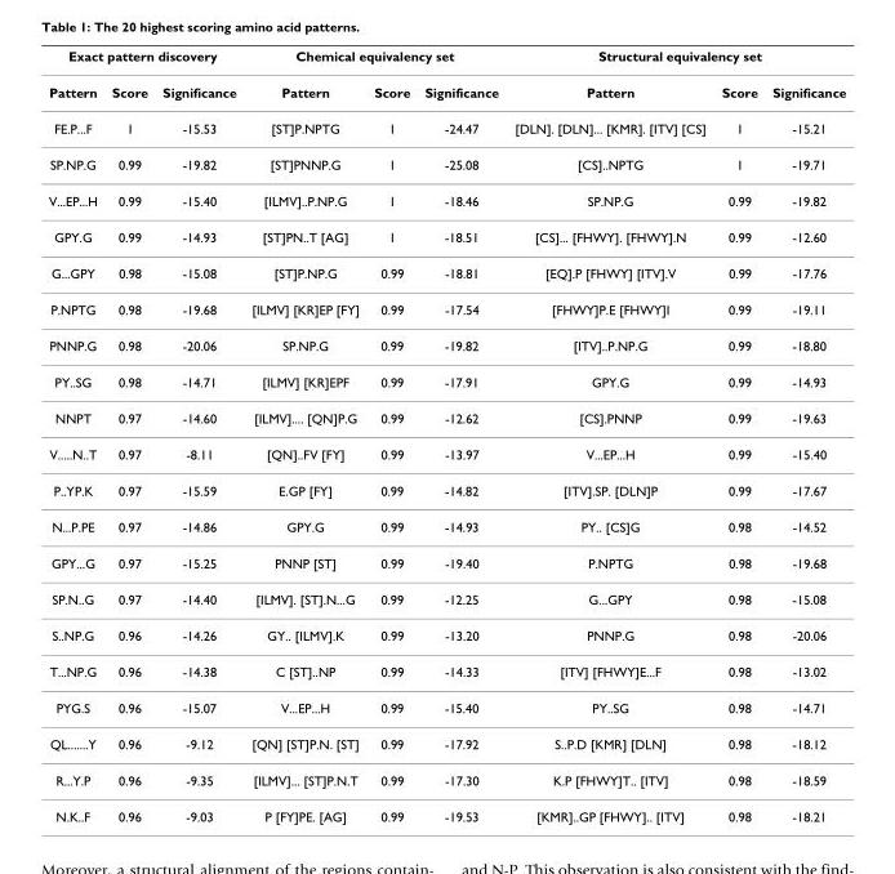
<table><thead><tr><td colspan="3">Exact pattern discovery</td><td colspan="3">Chemical equivalency set</td><td colspan="3">Structural equivalency set</td></tr><tr><td>Pattern</td><td>Score</td><td>Significance</td><td>Pattern</td><td>Score</td><td>Significance</td><td>Pattern</td><td>Score</td><td>Significance</td></tr></thead><tbody><tr><td>FE.P...F</td><td>1</td><td>-15.53</td><td>[ST]P.NPTG</td><td>1</td><td>-24.47</td><td>[DLN]. [DLN]... [KMR]. [ITV] [CS]</td><td>1</td><td>-15.21</td></tr><tr><td>SP.NP.G</td><td>0.99</td><td>-19.82</td><td>[ST]PNNP.G</td><td>1</td><td>-25.08</td><td>[CS]..NPTG</td><td>1</td><td>-19.71</td></tr><tr><td>V...EP...H</td><td>0.99</td><td>-15.40</td><td>[ILMV]..P.NP.G</td><td>1</td><td>-18.46</td><td>SP.NP.G</td><td>0.99</td><td>-19.82</td></tr><tr><td>GPY.G</td><td>0.99</td><td>-14.93</td><td>[ST]PN..T [AG]</td><td>1</td><td>-18.51</td><td>[CS]... [FHWY]. [FHWY].N</td><td>0.99</td><td>-12.60</td></tr><tr><td>G...GPY</td><td>0.98</td><td>-15.08</td><td>[ST]P.NP.G</td><td>0.99</td><td>-18.81</td><td>[EQ].P [FHWY] [ITV].V</td><td>0.99</td><td>-17.76</td></tr><tr><td>P.NPTG</td><td>0.98</td><td>-19.68</td><td>[ILMV] [KR]EP [FY]</td><td>0.99</td><td>-17.54</td><td>[FHWY]P.E [FHWY]I</td><td>0.99</td><td>-19.11</td></tr><tr><td>PNNP.G</td><td>0.98</td><td>-20.06</td><td>SP.NP.G</td><td>0.99</td><td>-19.82</td><td>[ITV]..P.NP.G</td><td>0.99</td><td>-18.80</td></tr><tr><td>PY..SG</td><td>0.98</td><td>-14.71</td><td>[ILMV] [KR]EPF</td><td>0.99</td><td>-17.91</td><td>GPY.G</td><td>0.99</td><td>-14.93</td></tr><tr><td>NNPT</td><td>0.97</td><td>-14.60</td><td>[ILMV].... [QN]P.G</td><td>0.99</td><td>-12.62</td><td>[CS].PNNP</td><td>0.99</td><td>-19.63</td></tr><tr><td>V.....N..T</td><td>0.97</td><td>-8.11</td><td>[QN]..FV [FY]</td><td>0.99</td><td>-13.97</td><td>V...EP...H</td><td>0.99</td><td>-15.40</td></tr><tr><td>P..YP.K</td><td>0.97</td><td>-15.59</td><td>E.GP [FY]</td><td>0.99</td><td>-14.82</td><td>[ITV].SP. [DLN]P</td><td>0.99</td><td>-17.67</td></tr><tr><td>N...P.PE</td><td>0.97</td><td>-14.86</td><td>GPY.G</td><td>0.99</td><td>-14.93</td><td>PY.. [CS]G</td><td>0.98</td><td>-14.52</td></tr><tr><td>GPY...G</td><td>0.97</td><td>-15.25</td><td>PNNP [ST]</td><td>0.99</td><td>-19.40</td><td>P.NPTG</td><td>0.98</td><td>-19.68</td></tr><tr><td>SP.N..G</td><td>0.97</td><td>-14.40</td><td>[ILMV]. [ST].N...G</td><td>0.99</td><td>-12.25</td><td>G...GPY</td><td>0.98</td><td>-15.08</td></tr><tr><td>S..NP.G</td><td>0.96</td><td>-14.26</td><td>GY.. [ILMV].K</td><td>0.99</td><td>-13.20</td><td>PNNP.G</td><td>0.98</td><td>-20.06</td></tr><tr><td>T...NP.G</td><td>0.96</td><td>-14.38</td><td>C [ST]..NP</td><td>0.99</td><td>-14.33</td><td>[ITV] [FHWY]E...F</td><td>0.98</td><td>-13.02</td></tr><tr><td>PYG.S</td><td>0.96</td><td>-15.07</td><td>V...EP...H</td><td>0.99</td><td>-15.40</td><td>PY..SG</td><td>0.98</td><td>-14.71</td></tr><tr><td>QL.......Y</td><td>0.96</td><td>-9.12</td><td>[QN] [ST]P.N. [ST]</td><td>0.99</td><td>-17.92</td><td>S..P.D [KMR] [DLN]</td><td>0.98</td><td>-18.12</td></tr><tr><td>R...Y.P</td><td>0.96</td><td>-9.35</td><td>[ILMV]... [ST]P.N.T</td><td>0.99</td><td>-17.30</td><td>K.P [FHWY]T.. [ITV]</td><td>0.98</td><td>-18.59</td></tr><tr><td>N.K..F</td><td>0.96</td><td>-9.03</td><td>P [FY]PE. [AG]</td><td>0.99</td><td>-19.53</td><td>[KMR]..GP [FHWY].. [ITV]</td><td>0.98</td><td>-18.21</td></tr></tbody></table>